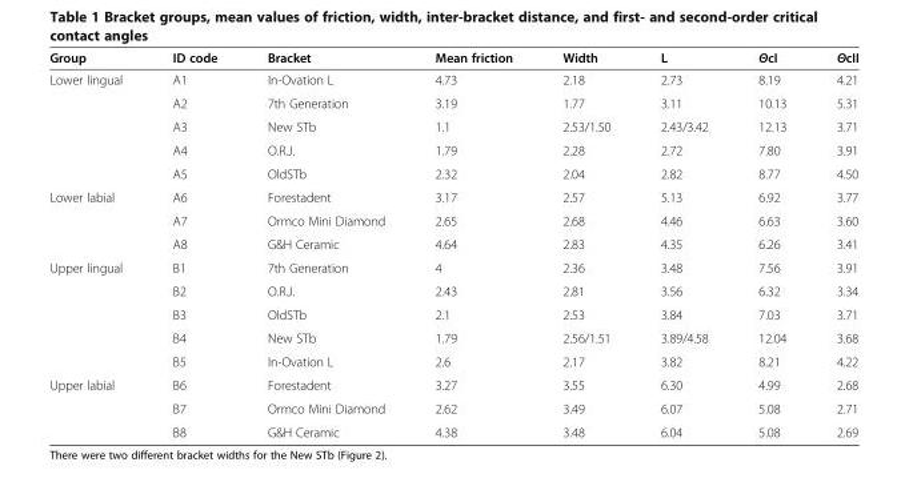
<table><thead><tr><td>Group</td><td>ID code</td><td>Bracket</td><td>Mean friction</td><td>Width</td><td>L</td><td>ΘcI</td><td>ΘcII</td></tr></thead><tbody><tr><td rowspan="5">Lower lingual</td><td>A1</td><td>In-Ovation L</td><td>4.73</td><td>2.18</td><td>2.73</td><td>8.19</td><td>4.21</td></tr><tr><td>A2</td><td>7th Generation</td><td>3.19</td><td>1.77</td><td>3.11</td><td>10.13</td><td>5.31</td></tr><tr><td>A3</td><td>New STb</td><td>1.1</td><td>2.53/1.50</td><td>2.43/3.42</td><td>12.13</td><td>3.71</td></tr><tr><td>A4</td><td>O.R.J.</td><td>1.79</td><td>2.28</td><td>2.72</td><td>7.80</td><td>3.91</td></tr><tr><td>A5</td><td>OldSTb</td><td>2.32</td><td>2.04</td><td>2.82</td><td>8.77</td><td>4.50</td></tr><tr><td rowspan="3">Lower labial</td><td>A6</td><td>Forestadent</td><td>3.17</td><td>2.57</td><td>5.13</td><td>6.92</td><td>3.77</td></tr><tr><td>A7</td><td>Ormco Mini Diamond</td><td>2.65</td><td>2.68</td><td>4.46</td><td>6.63</td><td>3.60</td></tr><tr><td>A8</td><td>G&amp;H Ceramic</td><td>4.64</td><td>2.83</td><td>4.35</td><td>6.26</td><td>3.41</td></tr><tr><td rowspan="5">Upper lingual</td><td>B1</td><td>7th Generation</td><td>4</td><td>2.36</td><td>3.48</td><td>7.56</td><td>3.91</td></tr><tr><td>B2</td><td>O.R.J.</td><td>2.43</td><td>2.81</td><td>3.56</td><td>6.32</td><td>3.34</td></tr><tr><td>B3</td><td>OldSTb</td><td>2.1</td><td>2.53</td><td>3.84</td><td>7.03</td><td>3.71</td></tr><tr><td>B4</td><td>New STb</td><td>1.79</td><td>2.56/1.51</td><td>3.89/4.58</td><td>12.04</td><td>3.68</td></tr><tr><td>B5</td><td>In-Ovation L</td><td>2.6</td><td>2.17</td><td>3.82</td><td>8.21</td><td>4.22</td></tr><tr><td rowspan="3">Upper labial</td><td>B6</td><td>Forestadent</td><td>3.27</td><td>3.55</td><td>6.30</td><td>4.99</td><td>2.68</td></tr><tr><td>B7</td><td>Ormco Mini Diamond</td><td>2.62</td><td>3.49</td><td>6.07</td><td>5.08</td><td>2.71</td></tr><tr><td>B8</td><td>G&amp;H Ceramic</td><td>4.38</td><td>3.48</td><td>6.04</td><td>5.08</td><td>2.69</td></tr></tbody></table>